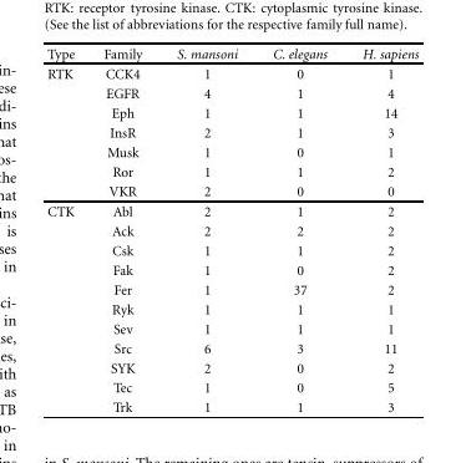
<table><thead><tr><td>Type</td><td>Family</td><td>S. mansoni</td><td>C. elegans</td><td>H. sapiens</td></tr></thead><tbody><tr><td rowspan="7">RTK</td><td>CCK4</td><td>1</td><td>0</td><td>1</td></tr><tr><td>EGFR</td><td>4</td><td>1</td><td>4</td></tr><tr><td>Eph</td><td>1</td><td>1</td><td>14</td></tr><tr><td>InsR</td><td>2</td><td>1</td><td>3</td></tr><tr><td>Musk</td><td>1</td><td>0</td><td>1</td></tr><tr><td>Ror</td><td>1</td><td>1</td><td>2</td></tr><tr><td>VKR</td><td>2</td><td>0</td><td>0</td></tr><tr><td rowspan="11">CTK</td><td>Abl</td><td>2</td><td>1</td><td>2</td></tr><tr><td>Ack</td><td>2</td><td>2</td><td>2</td></tr><tr><td>Csk</td><td>1</td><td>1</td><td>2</td></tr><tr><td>Fak</td><td>1</td><td>0</td><td>2</td></tr><tr><td>Fer</td><td>1</td><td>37</td><td>2</td></tr><tr><td>Ryk</td><td>1</td><td>1</td><td>1</td></tr><tr><td>Sev</td><td>1</td><td>1</td><td>1</td></tr><tr><td>Src</td><td>6</td><td>3</td><td>11</td></tr><tr><td>SYK</td><td>2</td><td>0</td><td>2</td></tr><tr><td>Tec</td><td>1</td><td>0</td><td>5</td></tr><tr><td>Trk</td><td>1</td><td>1</td><td>3</td></tr></tbody></table>